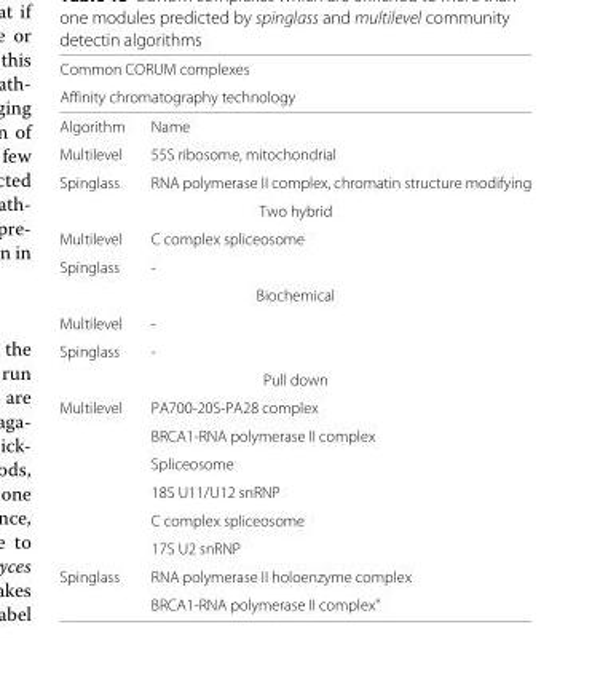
<table><thead><tr><td rowspan="2" colspan="2">Common CORUM complexes Affinity chromatography technology</td></tr><tr></tr><tr><td>Algorithm</td><td>Name</td></tr></thead><tbody><tr><td>Multilevel</td><td>55S ribosome, mitochondrial</td></tr><tr><td>Spinglass</td><td>RNA polymerase II complex, chromatin structure modifying</td></tr><tr><td colspan="2">Two hybrid</td></tr><tr><td>Multilevel</td><td>C complex spliceosome</td></tr><tr><td>Spinglass</td><td>-</td></tr><tr><td colspan="2">Biochemical</td></tr><tr><td>Multilevel</td><td>-</td></tr><tr><td>Spinglass</td><td>-</td></tr><tr><td colspan="2">Pull down</td></tr><tr><td rowspan="6">Multilevel</td><td>PA700-20S-PA28 complex</td></tr><tr><td>BRCA1-RNA polymerase II complex</td></tr><tr><td>Spliceosome</td></tr><tr><td>18S U11/U12 snRNP</td></tr><tr><td>C complex spliceosome</td></tr><tr><td>17S U2 snRNP</td></tr><tr><td rowspan="2">Spinglass</td><td>RNA polymerase II holoenzyme complex</td></tr><tr><td>BRCA1-RNA polymerase II complex&quot;</td></tr></tbody></table>